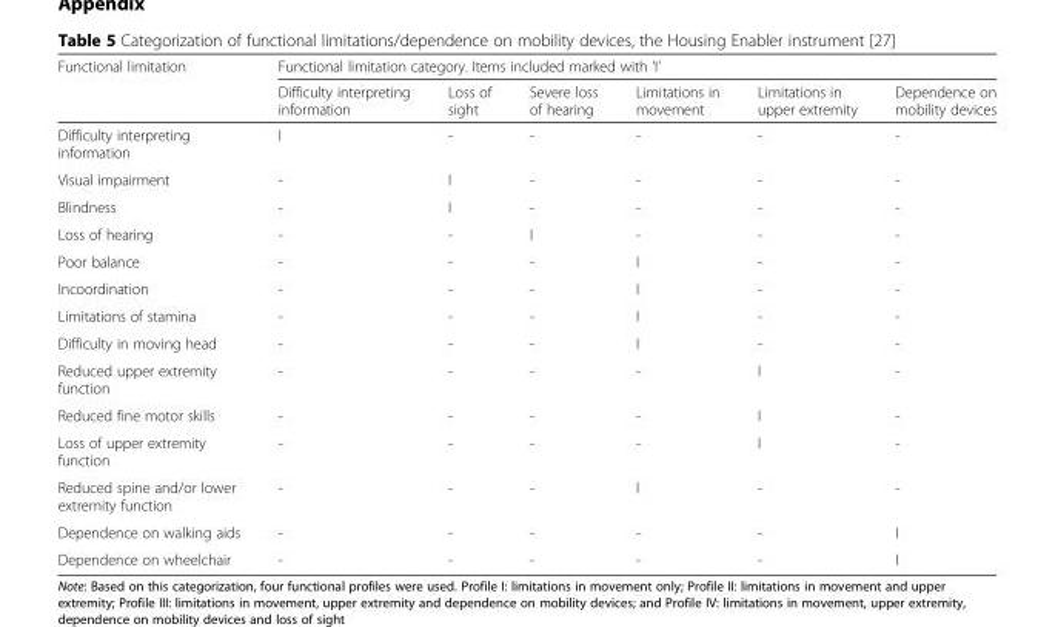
<table><thead><tr><td rowspan="2">Functional limitation</td><td colspan="6">Functional limitation category. Items included marked with ‘I’</td></tr><tr><td>Difficulty interpreting information</td><td>Loss of sight</td><td>Severe loss of hearing</td><td>Limitations in movement</td><td>Limitations in upper extremity</td><td>Dependence on mobility devices</td></tr></thead><tbody><tr><td>Difficulty interpreting information</td><td>I</td><td>-</td><td>-</td><td>-</td><td>-</td><td>-</td></tr><tr><td>Visual impairment</td><td>-</td><td>I</td><td>-</td><td>-</td><td>-</td><td>-</td></tr><tr><td>Blindness</td><td>-</td><td>I</td><td>-</td><td>-</td><td>-</td><td>-</td></tr><tr><td>Loss of hearing</td><td>-</td><td>-</td><td>I</td><td>-</td><td>-</td><td>-</td></tr><tr><td>Poor balance</td><td>-</td><td>-</td><td>-</td><td>I</td><td>-</td><td>-</td></tr><tr><td>Incoordination</td><td>-</td><td>-</td><td>-</td><td>I</td><td>-</td><td>-</td></tr><tr><td>Limitations of stamina</td><td>-</td><td>-</td><td>-</td><td>I</td><td>-</td><td>-</td></tr><tr><td>Difficulty in moving head</td><td>-</td><td>-</td><td>-</td><td>I</td><td>-</td><td>-</td></tr><tr><td>Reduced upper extremity function</td><td>-</td><td>-</td><td>-</td><td>-</td><td>I</td><td>-</td></tr><tr><td>Reduced fine motor skills</td><td>-</td><td>-</td><td>-</td><td>-</td><td>I</td><td>-</td></tr><tr><td>Loss of upper extremity function</td><td>-</td><td>-</td><td>-</td><td>-</td><td>I</td><td>-</td></tr><tr><td>Reduced spine and/or lower extremity function</td><td>-</td><td>-</td><td>-</td><td>I</td><td>-</td><td>-</td></tr><tr><td>Dependence on walking aids</td><td>-</td><td>-</td><td>-</td><td>-</td><td>-</td><td>I</td></tr><tr><td>Dependence on wheelchair</td><td>-</td><td>-</td><td>-</td><td>-</td><td>-</td><td>I</td></tr></tbody></table>